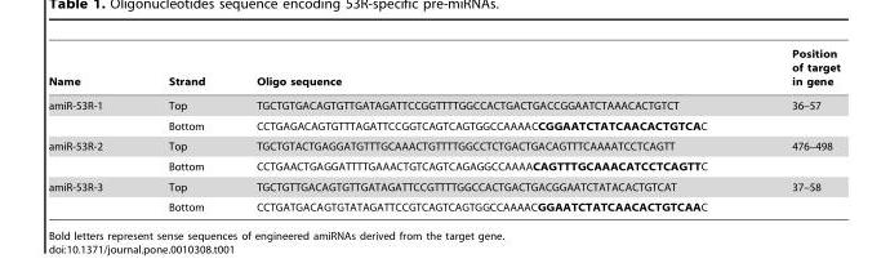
<table><thead><tr><td>Name</td><td>Strand</td><td>Oligo sequence</td><td>Position of target in gene</td></tr></thead><tbody><tr><td rowspan="2">amiR-53R-1</td><td>Top</td><td>TGCTGTGACAGTGTTGATAGATTCCGGTTTTGGCCACTGACTGACCGGAATCTAAACACTGTCT</td><td>36–57</td></tr><tr><td>Bottom</td><td>CCTGAGACAGTGTTTAGATTCCGGTCAGTCAGTGGCCAAAACCGGAATCTATCAACACTGTCAC</td><td></td></tr><tr><td rowspan="2">amiR-53R-2</td><td>Top</td><td>TGCTGTACTGAGGATGTTTGCAAACTGTTTTGGCCTCTGACTGACAGTTTCAAAATCCTCAGTT</td><td>476–498</td></tr><tr><td>Bottom</td><td>CCTGAACTGAGGATTTTGAAACTGTCAGTCAGAGGCCAAAACAGTTTGCAAACATCCTCAGTTC</td><td></td></tr><tr><td rowspan="2">amiR-53R-3</td><td>Top</td><td>TGCTGTTGACAGTGTTGATAGATTCCGTTTTGGCCACTGACTGACGGAATCTATACACTGTCAT</td><td>37–58</td></tr><tr><td>Bottom</td><td>CCTGATGACAGTGTATAGATTCCGTCAGTCAGTGGCCAAAACGGAATCTATCAACACTGTCAAC</td><td></td></tr></tbody></table>